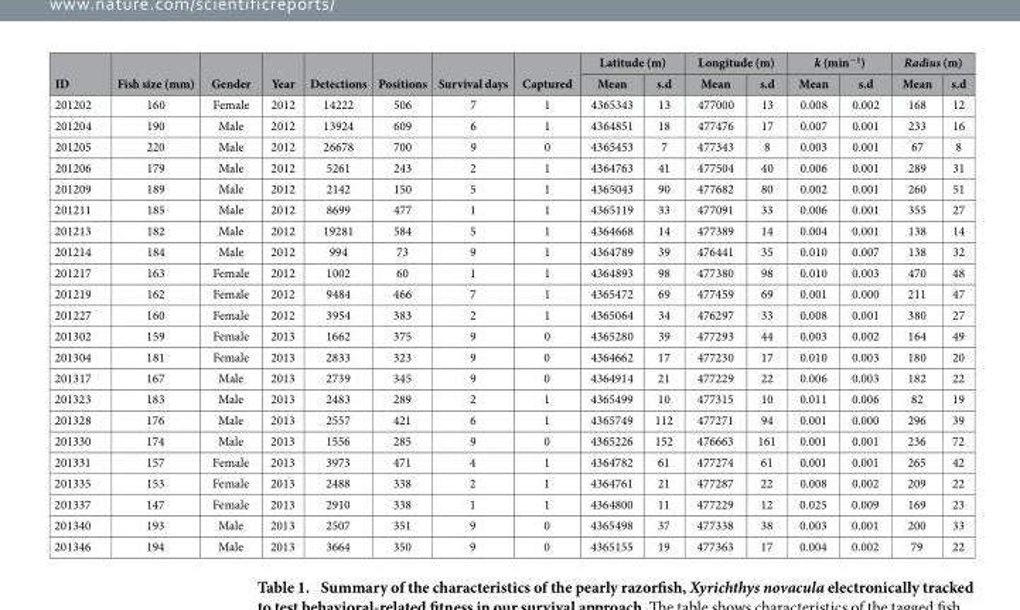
<table><thead><tr><td rowspan="2">ID</td><td rowspan="2">Fish size (mm)</td><td rowspan="2">Gender</td><td rowspan="2">Year</td><td rowspan="2">Detections</td><td rowspan="2">Positions</td><td rowspan="2">Survival days</td><td rowspan="2">Captured</td><td colspan="2">Latitude (m)</td><td colspan="2">Longitude (m)</td><td colspan="2">k (min<sup>−1</sup>)</td><td colspan="2">Radius (m)</td></tr><tr><td>Mean</td><td>s.d</td><td>Mean</td><td>s.d</td><td>Mean</td><td>s.d</td><td>Mean</td><td>s.d</td></tr></thead><tbody><tr><td>201202</td><td>160</td><td>Female</td><td>2012</td><td>14222</td><td>506</td><td>7</td><td>1</td><td>4365343</td><td>13</td><td>477000</td><td>13</td><td>0.008</td><td>0.002</td><td>168</td><td>12</td></tr><tr><td>201204</td><td>190</td><td>Male</td><td>2012</td><td>13924</td><td>609</td><td>6</td><td>1</td><td>4364851</td><td>18</td><td>477476</td><td>17</td><td>0.007</td><td>0.001</td><td>233</td><td>16</td></tr><tr><td>201205</td><td>220</td><td>Male</td><td>2012</td><td>26678</td><td>700</td><td>9</td><td>0</td><td>4365453</td><td>7</td><td>477343</td><td>8</td><td>0.003</td><td>0.001</td><td>67</td><td>8</td></tr><tr><td>201206</td><td>179</td><td>Male</td><td>2012</td><td>5261</td><td>243</td><td>2</td><td>1</td><td>4364763</td><td>41</td><td>477504</td><td>40</td><td>0.006</td><td>0.001</td><td>289</td><td>31</td></tr><tr><td>201209</td><td>189</td><td>Male</td><td>2012</td><td>2142</td><td>150</td><td>5</td><td>1</td><td>4365043</td><td>90</td><td>477682</td><td>80</td><td>0.002</td><td>0.001</td><td>260</td><td>51</td></tr><tr><td>201211</td><td>185</td><td>Male</td><td>2012</td><td>8699</td><td>477</td><td>1</td><td>1</td><td>4365119</td><td>33</td><td>477091</td><td>33</td><td>0.006</td><td>0.001</td><td>355</td><td>27</td></tr><tr><td>201213</td><td>182</td><td>Male</td><td>2012</td><td>19281</td><td>584</td><td>5</td><td>1</td><td>4364668</td><td>14</td><td>477389</td><td>14</td><td>0.004</td><td>0.001</td><td>138</td><td>14</td></tr><tr><td>201214</td><td>184</td><td>Male</td><td>2012</td><td>994</td><td>73</td><td>9</td><td>1</td><td>4364789</td><td>39</td><td>476441</td><td>35</td><td>0.010</td><td>0.007</td><td>138</td><td>32</td></tr><tr><td>201217</td><td>163</td><td>Female</td><td>2012</td><td>1002</td><td>60</td><td>1</td><td>1</td><td>4364893</td><td>98</td><td>477380</td><td>98</td><td>0.010</td><td>0.003</td><td>470</td><td>48</td></tr><tr><td>201219</td><td>162</td><td>Female</td><td>2012</td><td>9484</td><td>466</td><td>7</td><td>1</td><td>4365472</td><td>69</td><td>477459</td><td>69</td><td>0.001</td><td>0.000</td><td>211</td><td>47</td></tr><tr><td>201227</td><td>160</td><td>Female</td><td>2012</td><td>3954</td><td>383</td><td>2</td><td>1</td><td>4365064</td><td>34</td><td>476297</td><td>33</td><td>0.008</td><td>0.001</td><td>380</td><td>27</td></tr><tr><td>201302</td><td>159</td><td>Female</td><td>2013</td><td>1662</td><td>375</td><td>9</td><td>0</td><td>4365280</td><td>39</td><td>477293</td><td>44</td><td>0.003</td><td>0.002</td><td>164</td><td>49</td></tr><tr><td>201304</td><td>181</td><td>Female</td><td>2013</td><td>2833</td><td>323</td><td>9</td><td>0</td><td>4364662</td><td>17</td><td>477230</td><td>17</td><td>0.010</td><td>0.003</td><td>180</td><td>20</td></tr><tr><td>201317</td><td>167</td><td>Male</td><td>2013</td><td>2739</td><td>345</td><td>9</td><td>0</td><td>4364914</td><td>21</td><td>477229</td><td>22</td><td>0.006</td><td>0.003</td><td>182</td><td>22</td></tr><tr><td>201323</td><td>183</td><td>Male</td><td>2013</td><td>2483</td><td>289</td><td>2</td><td>1</td><td>4365499</td><td>10</td><td>477315</td><td>10</td><td>0.011</td><td>0.006</td><td>82</td><td>19</td></tr><tr><td>201328</td><td>176</td><td>Male</td><td>2013</td><td>2557</td><td>421</td><td>6</td><td>1</td><td>4365749</td><td>112</td><td>477271</td><td>94</td><td>0.001</td><td>0.000</td><td>296</td><td>39</td></tr><tr><td>201330</td><td>174</td><td>Male</td><td>2013</td><td>1556</td><td>285</td><td>9</td><td>0</td><td>4365226</td><td>152</td><td>476663</td><td>161</td><td>0.001</td><td>0.001</td><td>236</td><td>72</td></tr><tr><td>201331</td><td>157</td><td>Female</td><td>2013</td><td>3973</td><td>471</td><td>4</td><td>1</td><td>4364782</td><td>61</td><td>477274</td><td>61</td><td>0.001</td><td>0.001</td><td>265</td><td>42</td></tr><tr><td>201335</td><td>153</td><td>Female</td><td>2013</td><td>2488</td><td>338</td><td>2</td><td>1</td><td>4364761</td><td>21</td><td>477287</td><td>22</td><td>0.008</td><td>0.002</td><td>209</td><td>22</td></tr><tr><td>201337</td><td>147</td><td>Female</td><td>2013</td><td>2910</td><td>338</td><td>1</td><td>1</td><td>4364800</td><td>11</td><td>477229</td><td>12</td><td>0.025</td><td>0.009</td><td>169</td><td>23</td></tr><tr><td>201340</td><td>193</td><td>Male</td><td>2013</td><td>2507</td><td>351</td><td>9</td><td>0</td><td>4365498</td><td>37</td><td>477338</td><td>38</td><td>0.003</td><td>0.001</td><td>200</td><td>33</td></tr><tr><td>201346</td><td>194</td><td>Male</td><td>2013</td><td>3664</td><td>350</td><td>9</td><td>0</td><td>4365155</td><td>19</td><td>477363</td><td>17</td><td>0.004</td><td>0.002</td><td>79</td><td>22</td></tr></tbody></table>